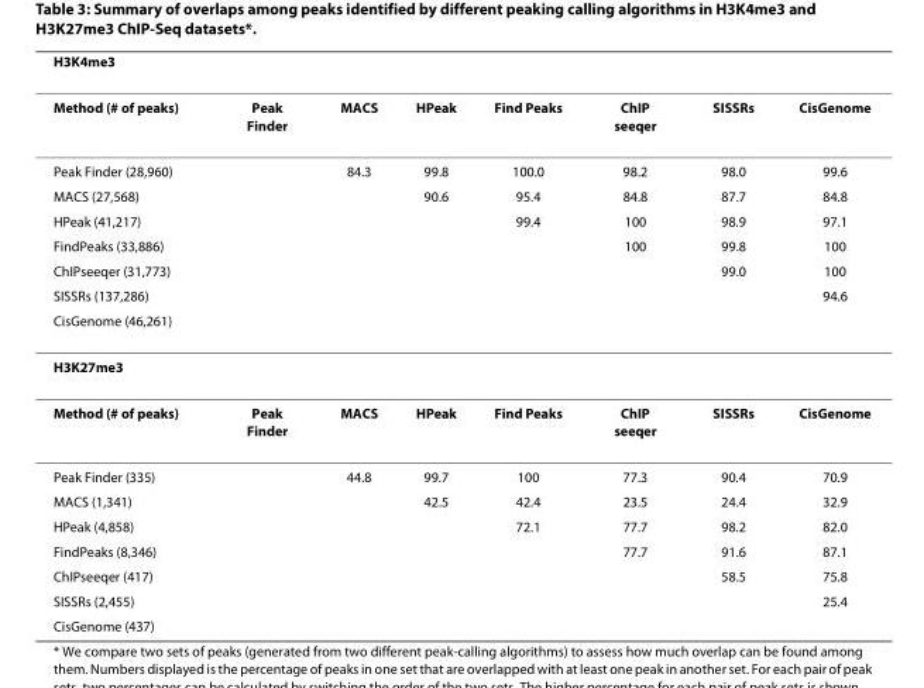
<table><thead><tr><td colspan="8">H3K4me3</td></tr><tr><td>Method (# of peaks)</td><td>Peak Finder</td><td>MACS</td><td>HPeak</td><td>Find Peaks</td><td>ChIP seeqer</td><td>SISSRs</td><td>CisGenome</td></tr></thead><tbody><tr><td>Peak Finder (28,960)</td><td></td><td>84.3</td><td>99.8</td><td>100.0</td><td>98.2</td><td>98.0</td><td>99.6</td></tr><tr><td>MACS (27,568)</td><td></td><td></td><td>90.6</td><td>95.4</td><td>84.8</td><td>87.7</td><td>84.8</td></tr><tr><td>HPeak (41,217)</td><td></td><td></td><td></td><td>99.4</td><td>100</td><td>98.9</td><td>97.1</td></tr><tr><td>FindPeaks (33,886)</td><td></td><td></td><td></td><td></td><td>100</td><td>99.8</td><td>100</td></tr><tr><td>ChIPseeqer (31,773)</td><td></td><td></td><td></td><td></td><td></td><td>99.0</td><td>100</td></tr><tr><td>SISSRs (137,286)</td><td></td><td></td><td></td><td></td><td></td><td></td><td>94.6</td></tr><tr><td colspan="8">CisGenome (46,261)</td></tr><tr><td colspan="8">H3K27me3</td></tr><tr><td>Method (# of peaks)</td><td>Peak Finder</td><td>MACS</td><td>HPeak</td><td>Find Peaks</td><td>ChIP seeqer</td><td>SISSRs</td><td>CisGenome</td></tr><tr><td>Peak Finder (335)</td><td></td><td>44.8</td><td>99.7</td><td>100</td><td>77.3</td><td>90.4</td><td>70.9</td></tr><tr><td>MACS (1,341)</td><td></td><td></td><td>42.5</td><td>42.4</td><td>23.5</td><td>24.4</td><td>32.9</td></tr><tr><td>HPeak (4,858)</td><td></td><td></td><td></td><td>72.1</td><td>77.7</td><td>98.2</td><td>82.0</td></tr><tr><td>FindPeaks (8,346)</td><td></td><td></td><td></td><td></td><td>77.7</td><td>91.6</td><td>87.1</td></tr><tr><td>ChIPseeqer (417)</td><td></td><td></td><td></td><td></td><td></td><td>58.5</td><td>75.8</td></tr><tr><td>SISSRs (2,455)</td><td></td><td></td><td></td><td></td><td></td><td></td><td>25.4</td></tr><tr><td>CisGenome (437)</td><td></td><td></td><td></td><td></td><td></td><td></td><td></td></tr></tbody></table>